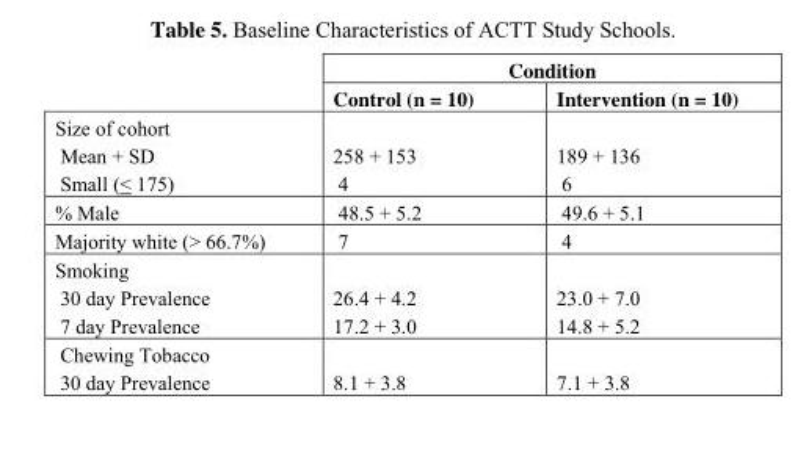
<table><thead><tr><td rowspan="2"></td><td colspan="2">Condition</td></tr><tr><td>Control (n = 10)</td><td>Intervention (n = 10)</td></tr></thead><tbody><tr><td>Size of cohort Mean + SD Small (&lt; 175)</td><td>258 + 153 4</td><td>189 + 136 6</td></tr><tr><td>% Male</td><td>48.5 + 5.2</td><td>49.6 + 5.1</td></tr><tr><td>Majority white (&gt; 66.7%)</td><td>7</td><td>4</td></tr><tr><td>Smoking 30 day Prevalence 7 day Prevalence</td><td>26.4 + 4.2 17.2 + 3.0</td><td>23.0 + 7.0 14.8 + 5.2</td></tr><tr><td>Chewing Tobacco 30 day Prevalence</td><td>8.1 + 3.8</td><td>7.1 + 3.8</td></tr></tbody></table>